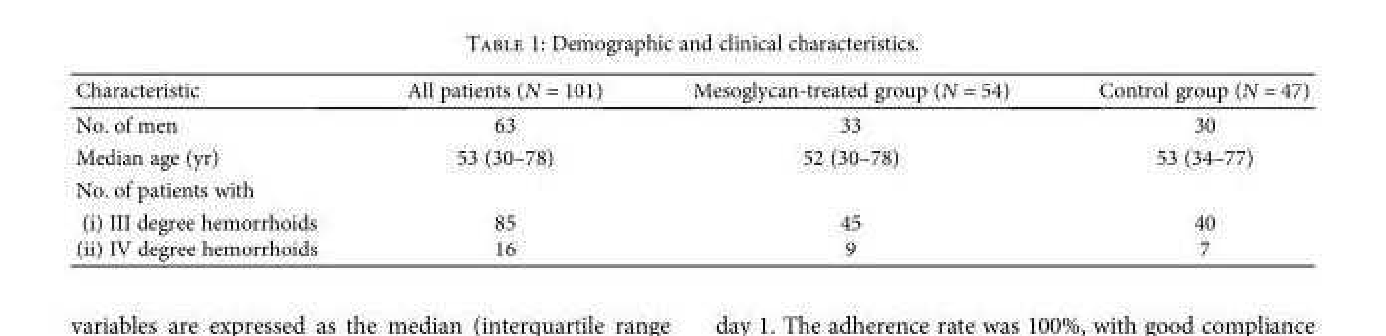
<table><thead><tr><td>Characteristic</td><td>All patients (N = 101)</td><td>Mesoglycan-treated group (N = 54)</td><td>Control group (N = 47)</td></tr></thead><tbody><tr><td>No. of men</td><td>63</td><td>33</td><td>30</td></tr><tr><td>Median age (yr)</td><td>53 (30–78)</td><td>52 (30–78)</td><td>53 (34–77)</td></tr><tr><td colspan="4">No. of patients with</td></tr><tr><td>(i) III degree hemorrhoids (ii) IV degree hemorrhoids</td><td>85 16</td><td>45 9</td><td>40 7</td></tr></tbody></table>